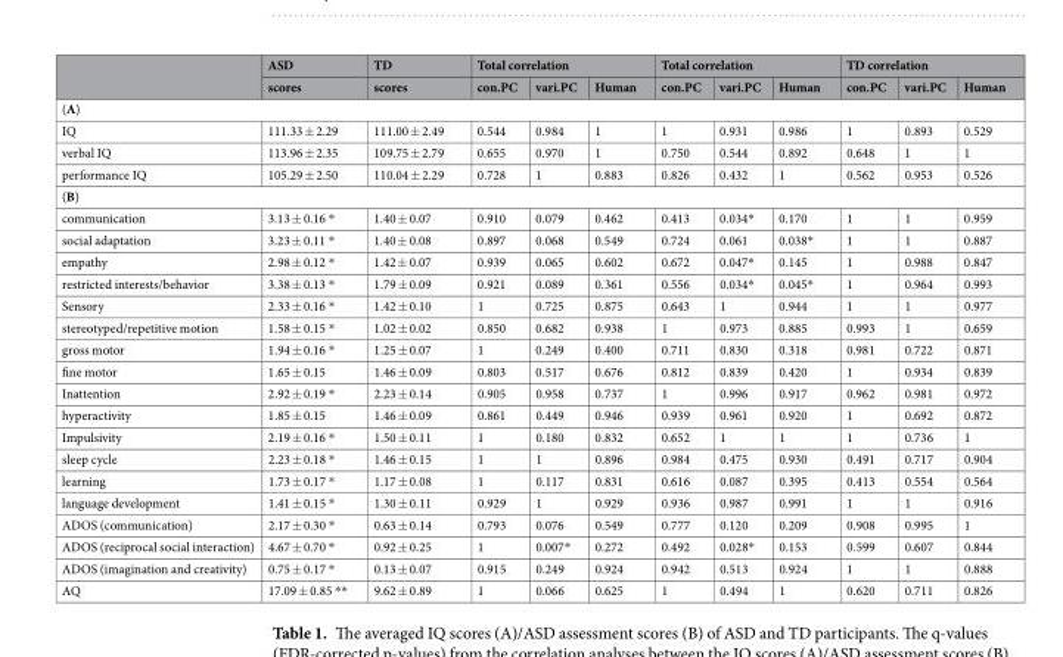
<table><thead><tr><td rowspan="2"></td><td rowspan="2">ASD scores</td><td rowspan="2">TD scores</td><td colspan="3">Total correlation</td><td colspan="3">Total correlation</td><td colspan="3">TD correlation</td></tr><tr><td>con.PC</td><td>vari.PC</td><td>Human</td><td>con.PC</td><td>vari.PC</td><td>Human</td><td>con.PC</td><td>vari.PC</td><td>Human</td></tr></thead><tbody><tr><td colspan="12">(A)</td></tr><tr><td>IQ</td><td>111.33 ± 2.29</td><td>111.00 ± 2.49</td><td>0.544</td><td>0.984</td><td>1</td><td>1</td><td>0.931</td><td>0.986</td><td>1</td><td>0.893</td><td>0.529</td></tr><tr><td>verbal IQ</td><td>113.96 ± 2.35</td><td>109.75 ± 2.79</td><td>0.655</td><td>0.970</td><td>1</td><td>0.750</td><td>0.544</td><td>0.892</td><td>0.648</td><td>1</td><td>1</td></tr><tr><td>performance IQ</td><td>105.29 ± 2.50</td><td>110.04 ± 2.29</td><td>0.728</td><td>1</td><td>0.883</td><td>0.826</td><td>0.432</td><td>1</td><td>0.562</td><td>0.953</td><td>0.526</td></tr><tr><td colspan="12">(B)</td></tr><tr><td>communication</td><td>3.13 ± 0.16 *</td><td>1.40 ± 0.07</td><td>0.910</td><td>0.079</td><td>0.462</td><td>0.413</td><td>0.034*</td><td>0.170</td><td>1</td><td>1</td><td>0.959</td></tr><tr><td>social adaptation</td><td>3.23 ± 0.11 *</td><td>1.40 ± 0.08</td><td>0.897</td><td>0.068</td><td>0.549</td><td>0.724</td><td>0.061</td><td>0.038*</td><td>1</td><td>1</td><td>0.887</td></tr><tr><td>empathy</td><td>2.98 ± 0.12 *</td><td>1.42 ± 0.07</td><td>0.939</td><td>0.065</td><td>0.602</td><td>0.672</td><td>0.047*</td><td>0.145</td><td>1</td><td>0.988</td><td>0.847</td></tr><tr><td>restricted interests/behavior</td><td>3.38 ± 0.13 *</td><td>1.79 ± 0.09</td><td>0.921</td><td>0.089</td><td>0.361</td><td>0.556</td><td>0.034*</td><td>0.045*</td><td>1</td><td>0.964</td><td>0.993</td></tr><tr><td>Sensory</td><td>2.33 ± 0.16 *</td><td>1.42 ± 0.10</td><td>1</td><td>0.725</td><td>0.875</td><td>0.643</td><td>1</td><td>0.944</td><td>1</td><td>1</td><td>0.977</td></tr><tr><td>stereotyped/repetitive motion</td><td>1.58 ± 0.15 *</td><td>1.02 ± 0.02</td><td>0.850</td><td>0.682</td><td>0.938</td><td>1</td><td>0.973</td><td>0.885</td><td>0.993</td><td>1</td><td>0.659</td></tr><tr><td>gross motor</td><td>1.94 ± 0.16 *</td><td>1.25 ± 0.07</td><td>1</td><td>0.249</td><td>0.400</td><td>0.711</td><td>0.830</td><td>0.318</td><td>0.981</td><td>0.722</td><td>0.871</td></tr><tr><td>fine motor</td><td>1.65 ± 0.15</td><td>1.46 ± 0.09</td><td>0.803</td><td>0.517</td><td>0.676</td><td>0.812</td><td>0.839</td><td>0.420</td><td>1</td><td>0.934</td><td>0.839</td></tr><tr><td>Inattention</td><td>2.92 ± 0.19 *</td><td>2.23 ± 0.14</td><td>0.905</td><td>0.958</td><td>0.737</td><td>1</td><td>0.996</td><td>0.917</td><td>0.962</td><td>0.981</td><td>0.972</td></tr><tr><td>hyperactivity</td><td>1.85 ± 0.15</td><td>1.46 ± 0.09</td><td>0.861</td><td>0.449</td><td>0.946</td><td>0.939</td><td>0.961</td><td>0.920</td><td>1</td><td>0.692</td><td>0.872</td></tr><tr><td>Impulsivity</td><td>2.19 ± 0.16 *</td><td>1.50 ± 0.11</td><td>1</td><td>0.180</td><td>0.832</td><td>0.652</td><td>1</td><td>1</td><td>1</td><td>0.736</td><td>1</td></tr><tr><td>sleep cycle</td><td>2.23 ± 0.18 *</td><td>1.46 ± 0.15</td><td>1</td><td>1</td><td>0.896</td><td>0.984</td><td>0.475</td><td>0.930</td><td>0.491</td><td>0.717</td><td>0.904</td></tr><tr><td>learning</td><td>1.73 ± 0.17 *</td><td>1.17 ± 0.08</td><td>1</td><td>0.117</td><td>0.831</td><td>0.616</td><td>0.087</td><td>0.395</td><td>0.413</td><td>0.554</td><td>0.564</td></tr><tr><td>language development</td><td>1.41 ± 0.15 *</td><td>1.30 ± 0.11</td><td>0.929</td><td>1</td><td>0.929</td><td>0.936</td><td>0.987</td><td>0.991</td><td>1</td><td>1</td><td>0.916</td></tr><tr><td>ADOS (communication)</td><td>2.17 ± 0.30 *</td><td>0.63 ± 0.14</td><td>0.793</td><td>0.076</td><td>0.549</td><td>0.777</td><td>0.120</td><td>0.209</td><td>0.908</td><td>0.995</td><td>1</td></tr><tr><td>ADOS (reciprocal social interaction)</td><td>4.67 ± 0.70 *</td><td>0.92 ± 0.25</td><td>1</td><td>0.007*</td><td>0.272</td><td>0.492</td><td>0.028*</td><td>0.153</td><td>0.599</td><td>0.607</td><td>0.844</td></tr><tr><td>ADOS (imagination and creativity)</td><td>0.75 ± 0.17 *</td><td>0.13 ± 0.07</td><td>0.915</td><td>0.249</td><td>0.924</td><td>0.942</td><td>0.513</td><td>0.924</td><td>1</td><td>1</td><td>0.888</td></tr><tr><td>AQ</td><td>17.09 ± 0.85 **</td><td>9.62 ± 0.89</td><td>1</td><td>0.066</td><td>0.625</td><td>1</td><td>0.494</td><td>1</td><td>0.620</td><td>0.711</td><td>0.826</td></tr></tbody></table>